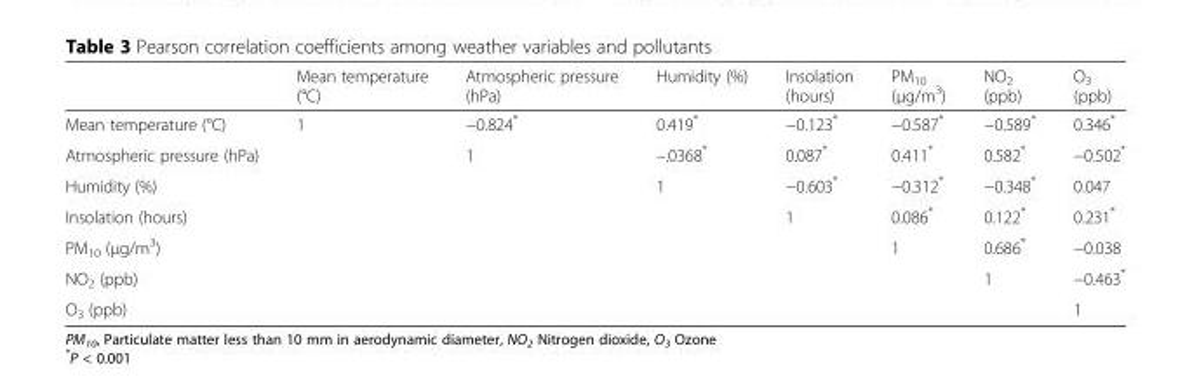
<table><thead><tr><td></td><td>Mean temperature (°C)</td><td>Atmospheric pressure (hPa)</td><td>Humidity (%)</td><td>Insolation (hours)</td><td>PM<sub>10</sub> (μg/m<sup>3</sup>)</td><td>NO<sub>2</sub> (ppb)</td><td>O<sub>3</sub> (ppb)</td></tr></thead><tbody><tr><td>Mean temperature (°C)</td><td>1</td><td>−0.824*</td><td>0.419*</td><td>−0.123*</td><td>−0.587*</td><td>−0.589*</td><td>0.346*</td></tr><tr><td>Atmospheric pressure (hPa)</td><td></td><td>1</td><td>–.0368*</td><td>0.087*</td><td>0.411*</td><td>0.582*</td><td>−0.502*</td></tr><tr><td>Humidity (%)</td><td></td><td></td><td>1</td><td>−0.603*</td><td>−0.312*</td><td>−0.348*</td><td>0.047</td></tr><tr><td>Insolation (hours)</td><td></td><td></td><td></td><td>1</td><td>0.086*</td><td>0.122*</td><td>0.231*</td></tr><tr><td>PM<sub>10</sub> (μg/m<sup>3</sup>)</td><td></td><td></td><td></td><td></td><td>1</td><td>0.686*</td><td>−0.038</td></tr><tr><td>NO<sub>2</sub> (ppb)</td><td></td><td></td><td></td><td></td><td></td><td>1</td><td>−0.463*</td></tr><tr><td>O<sub>3</sub> (ppb)</td><td></td><td></td><td></td><td></td><td></td><td></td><td>1</td></tr></tbody></table>